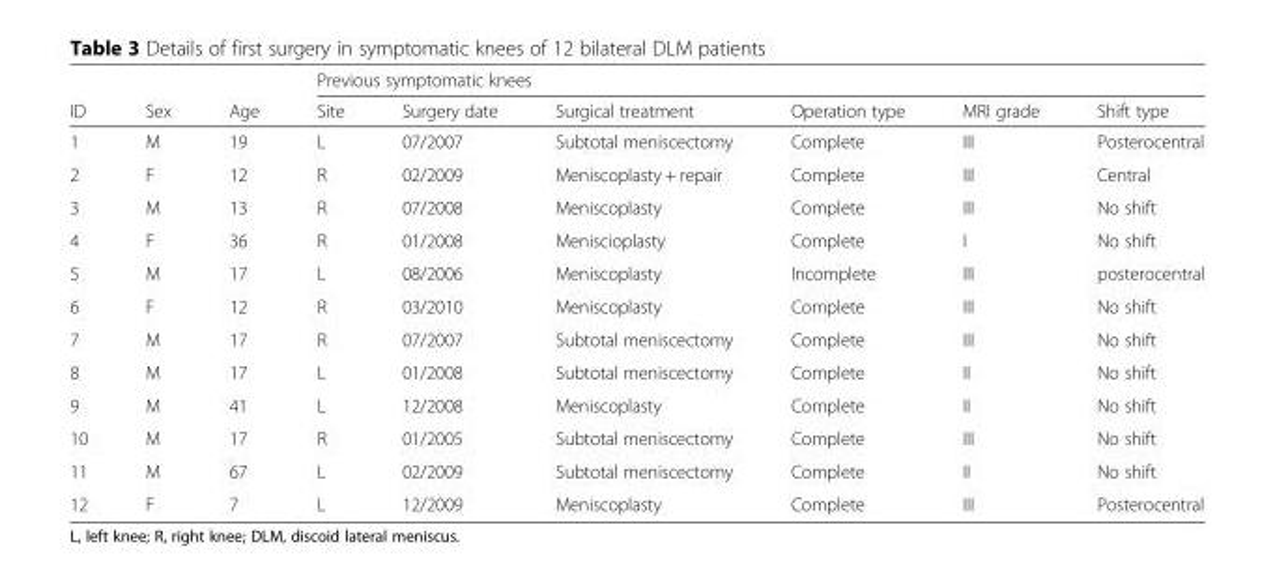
<table><thead><tr><td rowspan="2">ID</td><td rowspan="2">Sex</td><td rowspan="2">Age</td><td colspan="6">Previous symptomatic knees</td></tr><tr><td>Site</td><td>Surgery date</td><td>Surgical treatment</td><td>Operation type</td><td>MRI grade</td><td>Shift type</td></tr></thead><tbody><tr><td>1</td><td>M</td><td>19</td><td>L</td><td>07/2007</td><td>Subtotal meniscectomy</td><td>Complete</td><td>III</td><td>Posterocentral</td></tr><tr><td>2</td><td>F</td><td>12</td><td>R</td><td>02/2009</td><td>Meniscoplasty + repair</td><td>Complete</td><td>III</td><td>Central</td></tr><tr><td>3</td><td>M</td><td>13</td><td>R</td><td>07/2008</td><td>Meniscoplasty</td><td>Complete</td><td>III</td><td>No shift</td></tr><tr><td>4</td><td>F</td><td>36</td><td>R</td><td>01/2008</td><td>Meniscioplasty</td><td>Complete</td><td>I</td><td>No shift</td></tr><tr><td>5</td><td>M</td><td>17</td><td>L</td><td>08/2006</td><td>Meniscoplasty</td><td>Incomplete</td><td>III</td><td>posterocentral</td></tr><tr><td>6</td><td>F</td><td>12</td><td>R</td><td>03/2010</td><td>Meniscoplasty</td><td>Complete</td><td>III</td><td>No shift</td></tr><tr><td>7</td><td>M</td><td>17</td><td>R</td><td>07/2007</td><td>Subtotal meniscectomy</td><td>Complete</td><td>III</td><td>No shift</td></tr><tr><td>8</td><td>M</td><td>17</td><td>L</td><td>01/2008</td><td>Subtotal meniscectomy</td><td>Complete</td><td>II</td><td>No shift</td></tr><tr><td>9</td><td>M</td><td>41</td><td>L</td><td>12/2008</td><td>Meniscoplasty</td><td>Complete</td><td>II</td><td>No shift</td></tr><tr><td>10</td><td>M</td><td>17</td><td>R</td><td>01/2005</td><td>Subtotal meniscectomy</td><td>Complete</td><td>III</td><td>No shift</td></tr><tr><td>11</td><td>M</td><td>67</td><td>L</td><td>02/2009</td><td>Subtotal meniscectomy</td><td>Complete</td><td>II</td><td>No shift</td></tr><tr><td>12</td><td>F</td><td>7</td><td>L</td><td>12/2009</td><td>Meniscoplasty</td><td>Complete</td><td>III</td><td>Posterocentral</td></tr></tbody></table>